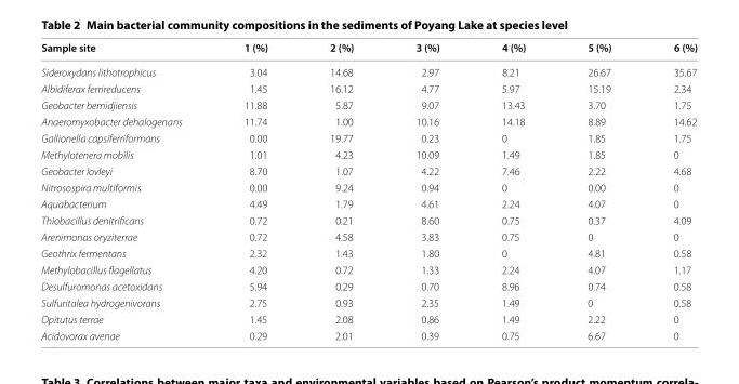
<table><thead><tr><td>Sample site</td><td>1 (%)</td><td>2 (%)</td><td>3 (%)</td><td>4 (%)</td><td>5 (%)</td><td>6 (%)</td></tr></thead><tbody><tr><td>Sideroxydans lithotrophicus</td><td>3.04</td><td>14.68</td><td>2.97</td><td>8.21</td><td>26.67</td><td>35.67</td></tr><tr><td>Albidiferax ferrireducens</td><td>1.45</td><td>16.12</td><td>4.77</td><td>5.97</td><td>15.19</td><td>2.34</td></tr><tr><td>Geobacter bemidjiensis</td><td>11.88</td><td>5.87</td><td>9.07</td><td>13.43</td><td>3.70</td><td>1.75</td></tr><tr><td>Anaeromyxobacter dehalogenans</td><td>11.74</td><td>1.00</td><td>10.16</td><td>14.18</td><td>8.89</td><td>14.62</td></tr><tr><td>Gallionella capsiferriformans</td><td>0.00</td><td>19.77</td><td>0.23</td><td>0</td><td>1.85</td><td>1.75</td></tr><tr><td>Methylotenera mobilis</td><td>1.01</td><td>4.23</td><td>10.09</td><td>1.49</td><td>1.85</td><td>0</td></tr><tr><td>Geobacter lovleyi</td><td>8.70</td><td>1.07</td><td>4.22</td><td>7.46</td><td>2.22</td><td>4.68</td></tr><tr><td>Nitrosospira multiformis</td><td>0.00</td><td>9.24</td><td>0.94</td><td>0</td><td>0.00</td><td>0</td></tr><tr><td>Aquabacterium</td><td>4.49</td><td>1.79</td><td>4.61</td><td>2.24</td><td>4.07</td><td>0</td></tr><tr><td>Thiobacillus denitrificans</td><td>0.72</td><td>0.21</td><td>8.60</td><td>0.75</td><td>0.37</td><td>4.09</td></tr><tr><td>Arenimonas oryziterrae</td><td>0.72</td><td>4.58</td><td>3.83</td><td>0.75</td><td>0</td><td>0</td></tr><tr><td>Geothrix fermentans</td><td>2.32</td><td>1.43</td><td>1.80</td><td>0</td><td>4.81</td><td>0.58</td></tr><tr><td>Methylobacillus flagellatus</td><td>4.20</td><td>0.72</td><td>1.33</td><td>2.24</td><td>4.07</td><td>1.17</td></tr><tr><td>Desulfuromonas acetoxidans</td><td>5.94</td><td>0.29</td><td>0.70</td><td>8.96</td><td>0.74</td><td>0.58</td></tr><tr><td>Sulfuritalea hydrogenivorans</td><td>2.75</td><td>0.93</td><td>2.35</td><td>1.49</td><td>0</td><td>0.58</td></tr><tr><td>Opitutus terrae</td><td>1.45</td><td>2.08</td><td>0.86</td><td>1.49</td><td>2.22</td><td>0</td></tr><tr><td>Acidovorax avenae</td><td>0.29</td><td>2.01</td><td>0.39</td><td>0.75</td><td>6.67</td><td>0</td></tr></tbody></table>